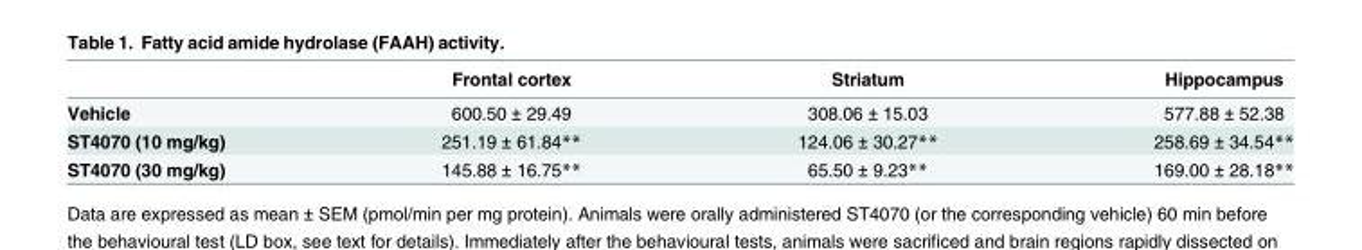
<table><thead><tr><td></td><td>Frontal cortex</td><td>Striatum</td><td>Hippocampus</td></tr></thead><tbody><tr><td>Vehicle</td><td>600.50 ± 29.49</td><td>308.06 ± 15.03</td><td>577.88 ± 52.38</td></tr><tr><td>ST4070 (10 mg/kg)</td><td>251.19 ± 61.84**</td><td>124.06 ± 30.27**</td><td>258.69 ± 34.54**</td></tr><tr><td>ST4070 (30 mg/kg)</td><td>145.88 ± 16.75**</td><td>65.50 ± 9.23**</td><td>169.00 ± 28.18**</td></tr></tbody></table>